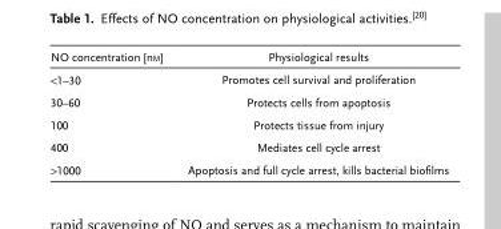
<table><thead><tr><td>NO concentration [nm]</td><td>Physiological results</td></tr></thead><tbody><tr><td>&lt;1–30</td><td>Promotes cell survival and proliferation</td></tr><tr><td>30–60</td><td>Protects cells from apoptosis</td></tr><tr><td>100</td><td>Protects tissue from injury</td></tr><tr><td>400</td><td>Mediates cell cycle arrest</td></tr><tr><td>&gt;1000</td><td>Apoptosis and full cycle arrest, kills bacterial biofilms</td></tr></tbody></table>